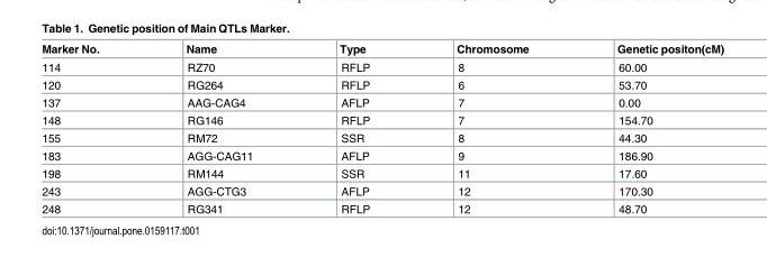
<table><thead><tr><td>Marker No.</td><td>Name</td><td>Type</td><td>Chromosome</td><td>Genetic positon(cM)</td></tr></thead><tbody><tr><td>114</td><td>RZ70</td><td>RFLP</td><td>8</td><td>60.00</td></tr><tr><td>120</td><td>RG264</td><td>RFLP</td><td>6</td><td>53.70</td></tr><tr><td>137</td><td>AAG-CAG4</td><td>AFLP</td><td>7</td><td>0.00</td></tr><tr><td>148</td><td>RG146</td><td>RFLP</td><td>7</td><td>154.70</td></tr><tr><td>155</td><td>RM72</td><td>SSR</td><td>8</td><td>44.30</td></tr><tr><td>183</td><td>AGG-CAG11</td><td>AFLP</td><td>9</td><td>186.90</td></tr><tr><td>198</td><td>RM144</td><td>SSR</td><td>11</td><td>17.60</td></tr><tr><td>243</td><td>AGG-CTG3</td><td>AFLP</td><td>12</td><td>170.30</td></tr><tr><td>248</td><td>RG341</td><td>RFLP</td><td>12</td><td>48.70</td></tr></tbody></table>